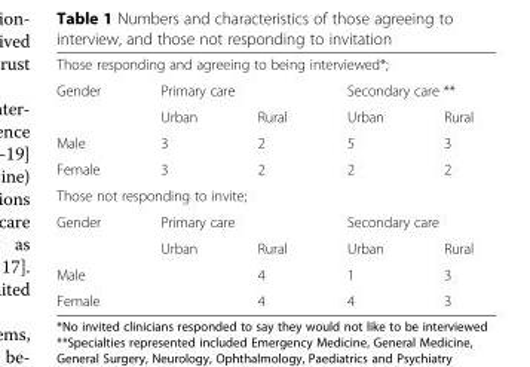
<table><tbody><tr><td colspan="5">Those responding and agreeing to being interviewed*;</td></tr><tr><td rowspan="2">Gender</td><td colspan="2">Primary care</td><td colspan="2">Secondary care **</td></tr><tr><td>Urban</td><td>Rural</td><td>Urban</td><td>Rural</td></tr><tr><td>Male</td><td>3</td><td>2</td><td>5</td><td>3</td></tr><tr><td>Female</td><td>3</td><td>2</td><td>2</td><td>2</td></tr><tr><td colspan="5">Those not responding to invite;</td></tr><tr><td rowspan="2">Gender</td><td colspan="2">Primary care</td><td colspan="2">Secondary care</td></tr><tr><td>Urban</td><td>Rural</td><td>Urban</td><td>Rural</td></tr><tr><td>Male</td><td></td><td>4</td><td>1</td><td>3</td></tr><tr><td>Female</td><td></td><td>4</td><td>4</td><td>3</td></tr></tbody></table>